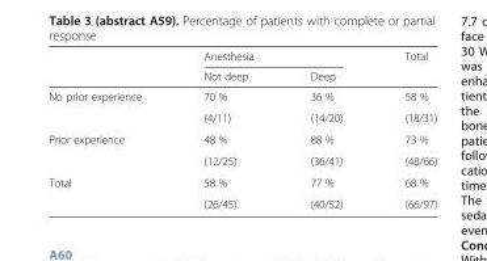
<table><thead><tr><td rowspan="2"></td><td colspan="2">Anesthesia</td><td rowspan="2">Total</td></tr><tr><td>Not deep</td><td>Deep</td></tr></thead><tbody><tr><td rowspan="2">No prior experience</td><td>70 %</td><td>36 %</td><td>58 %</td></tr><tr><td>(4/11)</td><td>(14/20)</td><td>(18/31)</td></tr><tr><td rowspan="2">Prior experience</td><td>48 %</td><td>88 %</td><td>73 %</td></tr><tr><td>(12/25)</td><td>(36/41)</td><td>(48/66)</td></tr><tr><td rowspan="2">Total</td><td>58 %</td><td>77 %</td><td>68 %</td></tr><tr><td>(26/45)</td><td>(40/52)</td><td>(66/97)</td></tr></tbody></table>